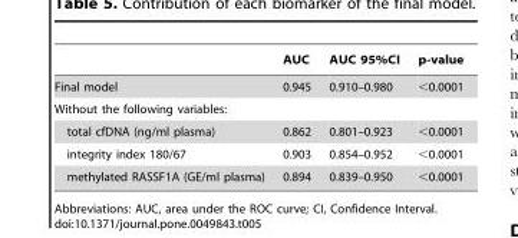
<table><thead><tr><td></td><td>AUC</td><td>AUC 95%CI</td><td>p-value</td></tr></thead><tbody><tr><td>Final model</td><td>0.945</td><td>0.910–0.980</td><td>&lt;0.0001</td></tr><tr><td colspan="4">Without the following variables:</td></tr><tr><td>total cfDNA (ng/ml plasma)</td><td>0.862</td><td>0.801–0.923</td><td>&lt;0.0001</td></tr><tr><td>integrity index 180/67</td><td>0.903</td><td>0.854–0.952</td><td>&lt;0.0001</td></tr><tr><td>methylated RASSF1A (GE/ml plasma)</td><td>0.894</td><td>0.839–0.950</td><td>&lt;0.0001</td></tr></tbody></table>